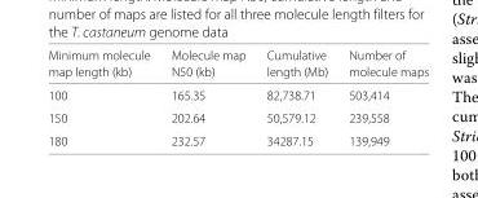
<table><thead><tr><td rowspan="2">Minimum molecule map length (kb)</td><td rowspan="2">Molecule map N50 (kb)</td><td rowspan="2">Cumulative length (Mb)</td><td rowspan="2">Number of molecule maps</td></tr><tr></tr></thead><tbody><tr><td>100</td><td>165.35</td><td>82,738.71</td><td>503,414</td></tr><tr><td>150</td><td>202.64</td><td>50,579.12</td><td>239,558</td></tr><tr><td>180</td><td>232.57</td><td>34287.15</td><td>139,949</td></tr></tbody></table>